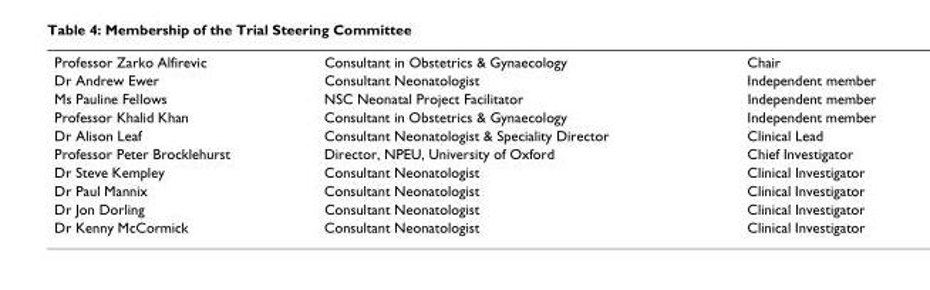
<table><tbody><tr><td>Professor Zarko Alfirevic</td><td>Consultant in Obstetrics &amp; Gynaecology</td><td>Chair</td></tr><tr><td>Dr Andrew Ewer</td><td>Consultant Neonatologist</td><td>Independent member</td></tr><tr><td>Ms Pauline Fellows</td><td>NSC Neonatal Project Facilitator</td><td>Independent member</td></tr><tr><td>Professor Khalid Khan</td><td>Consultant in Obstetrics &amp; Gynaecology</td><td>Independent member</td></tr><tr><td>Dr Alison Leaf</td><td>Consultant Neonatologist &amp; Speciality Director</td><td>Clinical Lead</td></tr><tr><td>Professor Peter Brocklehurst</td><td>Director, NPEU, University of Oxford</td><td>Chief Investigator</td></tr><tr><td>Dr Steve Kempley</td><td>Consultant Neonatologist</td><td>Clinical Investigator</td></tr><tr><td>Dr Paul Mannix</td><td>Consultant Neonatologist</td><td>Clinical Investigator</td></tr><tr><td>Dr Jon Dorling</td><td>Consultant Neonatologist</td><td>Clinical Investigator</td></tr><tr><td>Dr Kenny McCormick</td><td>Consultant Neonatologist</td><td>Clinical Investigator</td></tr></tbody></table>